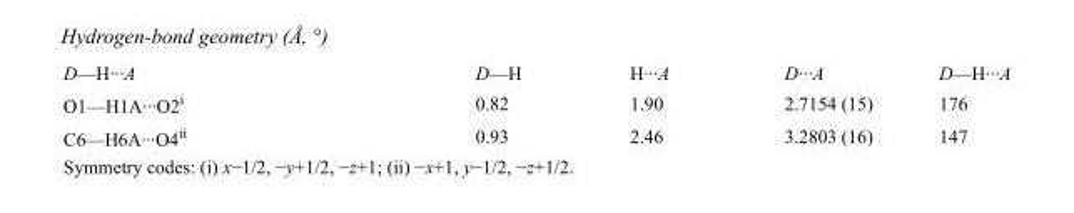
<table><tbody><tr><td>D—H···A</td><td>D—H</td><td>H···A</td><td>D···A</td><td>D—H···A</td></tr><tr><td>O1—H1A···O2<sup>i</sup></td><td>0.82</td><td>1.90</td><td>2.7154 (15)</td><td>176</td></tr><tr><td>C6—H6A···O4<sup>ii</sup></td><td>0.93</td><td>2.46</td><td>3.2803 (16)</td><td>147</td></tr></tbody></table>